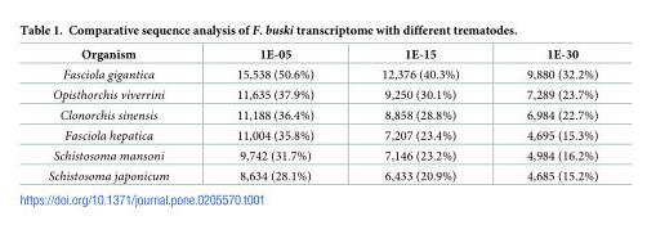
<table><thead><tr><td>Organism</td><td>1E-05</td><td>1E-15</td><td>1E-30</td></tr></thead><tbody><tr><td>Fasciola gigantica</td><td>15,538 (50.6%)</td><td>12,376 (40.3%)</td><td>9,880 (32.2%)</td></tr><tr><td>Opisthorchis viverrini</td><td>11,635 (37.9%)</td><td>9,250 (30.1%)</td><td>7,289 (23.7%)</td></tr><tr><td>Clonorchis sinensis</td><td>11,188 (36.4%)</td><td>8,858 (28.8%)</td><td>6,984 (22.7%)</td></tr><tr><td>Fasciola hepatica</td><td>11,004 (35.8%)</td><td>7,207 (23.4%)</td><td>4,695 (15.3%)</td></tr><tr><td>Schistosoma mansoni</td><td>9,742 (31.7%)</td><td>7,146 (23.2%)</td><td>4,984 (16.2%)</td></tr><tr><td>Schistosoma japonicum</td><td>8,634 (28.1%)</td><td>6,433 (20.9%)</td><td>4,685 (15.2%)</td></tr></tbody></table>